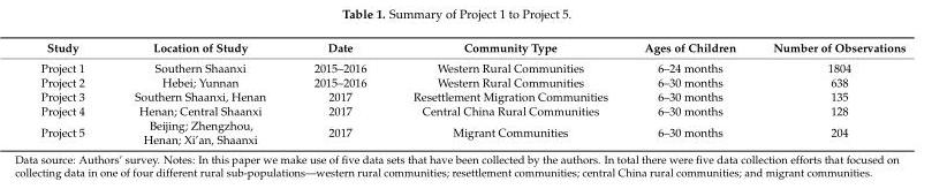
<table><thead><tr><td>Study</td><td>Location of Study</td><td>Date</td><td>Community Type</td><td>Ages of Children</td><td>Number of Observations</td></tr></thead><tbody><tr><td>Project 1</td><td>Southern Shaanxi</td><td>2015–2016</td><td>Western Rural Communities</td><td>6–24 months</td><td>1804</td></tr><tr><td>Project 2</td><td>Hebei; Yunnan</td><td>2015–2016</td><td>Western Rural Communities</td><td>6–30 months</td><td>638</td></tr><tr><td>Project 3</td><td>Southern Shaanxi, Henan</td><td>2017</td><td>Resettlement Migration Communities</td><td>6–30 months</td><td>135</td></tr><tr><td>Project 4</td><td>Henan; Central Shaanxi</td><td>2017</td><td>Central China Rural Communities</td><td>6–30 months</td><td>128</td></tr><tr><td>Project 5</td><td>Beijing; Zhengzhou, Henan; Xi’an, Shaanxi</td><td>2017</td><td>Migrant Communities</td><td>6–30 months</td><td>204</td></tr></tbody></table>